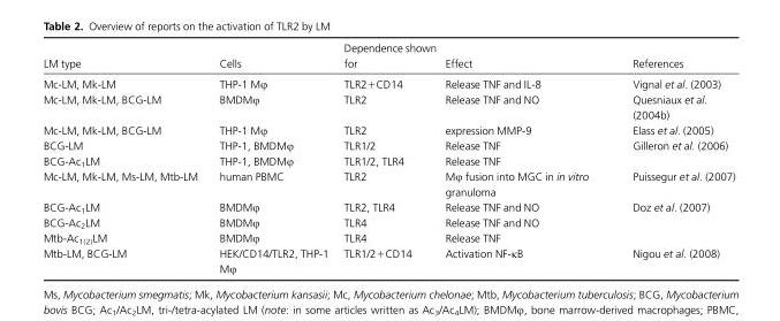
<table><thead><tr><td>LM type</td><td>Cells</td><td>Dependence shown for</td><td>Effect</td><td>References</td></tr></thead><tbody><tr><td>Mc-LM, Mk-LM</td><td>THP-1 Mϕ</td><td>TLR2+CD14</td><td>Release TNF and IL-8</td><td>Vignal et al. (2003)</td></tr><tr><td>Mc-LM, Mk-LM, BCG-LM</td><td>BMDMϕ</td><td>TLR2</td><td>Release TNF and NO</td><td>Quesniaux et al. (2004b)</td></tr><tr><td>Mc-LM, Mk-LM, BCG-LM</td><td>THP-1 Mϕ</td><td>TLR2</td><td>expression MMP-9</td><td>Elass et al. (2005)</td></tr><tr><td>BCG-LM</td><td>THP-1, BMDMϕ</td><td>TLR1/2</td><td>Release TNF</td><td>Gilleron et al. (2006)</td></tr><tr><td>BCG-Ac<sub>1</sub>LM</td><td>THP-1, BMDMϕ</td><td>TLR1/2, TLR4</td><td>Release TNF</td><td></td></tr><tr><td>Mc-LM, Mk-LM, Ms-LM, Mtb-LM</td><td>human PBMC</td><td>TLR2</td><td>Mϕ fusion into MGC in in vitro granuloma</td><td>Puissegur et al. (2007)</td></tr><tr><td>BCG-Ac<sub>1</sub>LM</td><td>BMDMϕ</td><td>TLR2, TLR4</td><td>Release TNF and NO</td><td>Doz et al. (2007)</td></tr><tr><td>BCG-Ac<sub>2</sub>LM</td><td>BMDMϕ</td><td>TLR4</td><td>Release TNF and NO</td><td></td></tr><tr><td>Mtb-Ac<sub>1(2)</sub>LM</td><td>BMDMϕ</td><td>TLR4</td><td>Release TNF</td><td></td></tr><tr><td>Mtb-LM, BCG-LM</td><td>HEK/CD14/TLR2, THP-1 Mϕ</td><td>TLR1/2+CD14</td><td>Activation NF-κB</td><td>Nigou et al. (2008)</td></tr></tbody></table>